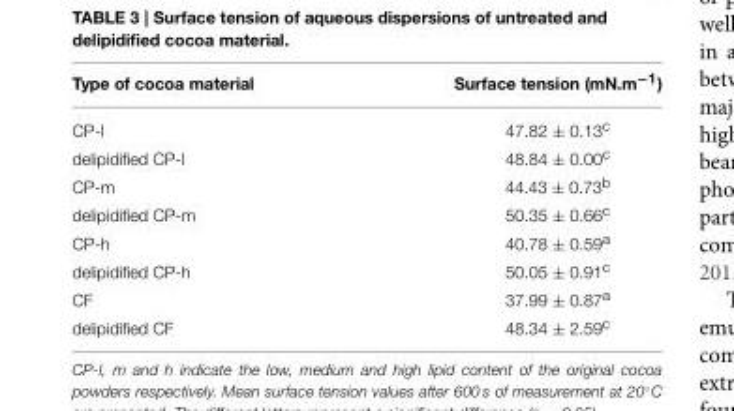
<table><thead><tr><td>Type of cocoa material</td><td>Surface tension (mN.m<sup>−1</sup>)</td></tr></thead><tbody><tr><td>CP-l</td><td>47.82 ± 0.13<sup>c</sup></td></tr><tr><td>delipidified CP-l</td><td>48.84 ± 0.00<sup>c</sup></td></tr><tr><td>CP-m</td><td>44.43 ± 0.73<sup>b</sup></td></tr><tr><td>delipidified CP-m</td><td>50.35 ± 0.66<sup>c</sup></td></tr><tr><td>CP-h</td><td>40.78 ± 0.59<sup>a</sup></td></tr><tr><td>delipidified CP-h</td><td>50.05 ± 0.91<sup>c</sup></td></tr><tr><td>CF</td><td>37.99 ± 0.87<sup>a</sup></td></tr><tr><td>delipidified CF</td><td>48.34 ± 2.59<sup>c</sup></td></tr></tbody></table>